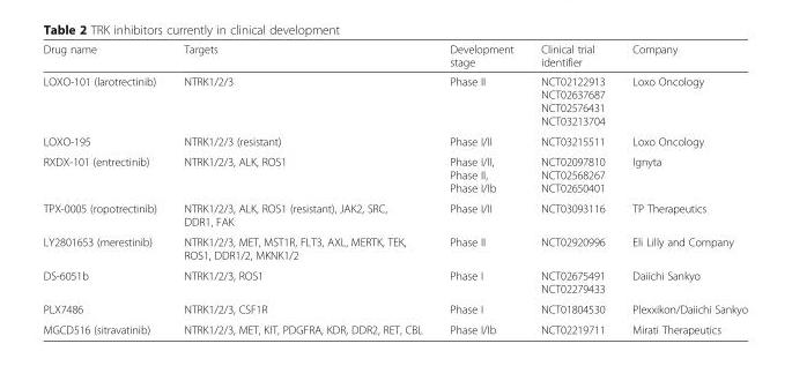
<table><thead><tr><td>Drug name</td><td>Targets</td><td>Development stage</td><td>Clinical trial identifier</td><td>Company</td></tr></thead><tbody><tr><td>LOXO-101 (larotrectinib)</td><td>NTRK1/2/3</td><td>Phase II</td><td>NCT02122913 NCT02637687 NCT02576431 NCT03213704</td><td>Loxo Oncology</td></tr><tr><td>LOXO-195</td><td>NTRK1/2/3 (resistant)</td><td>Phase I/II</td><td>NCT03215511</td><td>Loxo Oncology</td></tr><tr><td>RXDX-101 (entrectinib)</td><td>NTRK1/2/3, ALK, ROS1</td><td>Phase I/II, Phase II, Phase I/Ib</td><td>NCT02097810 NCT02568267 NCT02650401</td><td>Ignyta</td></tr><tr><td>TPX-0005 (ropotrectinib)</td><td>NTRK1/2/3, ALK, ROS1 (resistant), JAK2, SRC, DDR1, FAK</td><td>Phase I/II</td><td>NCT03093116</td><td>TP Therapeutics</td></tr><tr><td>LY2801653 (merestinib)</td><td>NTRK1/2/3, MET, MST1R, FLT3, AXL, MERTK, TEK, ROS1, DDR1/2, MKNK1/2</td><td>Phase II</td><td>NCT02920996</td><td>Eli Lilly and Company</td></tr><tr><td>DS-6051b</td><td>NTRK1/2/3, ROS1</td><td>Phase I</td><td>NCT02675491 NCT02279433</td><td>Daiichi Sankyo</td></tr><tr><td>PLX7486</td><td>NTRK1/2/3, CSF1R</td><td>Phase I</td><td>NCT01804530</td><td>Plexxikon/Daiichi Sankyo</td></tr><tr><td>MGCD516 (sitravatinib)</td><td>NTRK1/2/3, MET, KIT, PDGFRA, KDR, DDR2, RET, CBL</td><td>Phase I/Ib</td><td>NCT02219711</td><td>Mirati Therapeutics</td></tr></tbody></table>